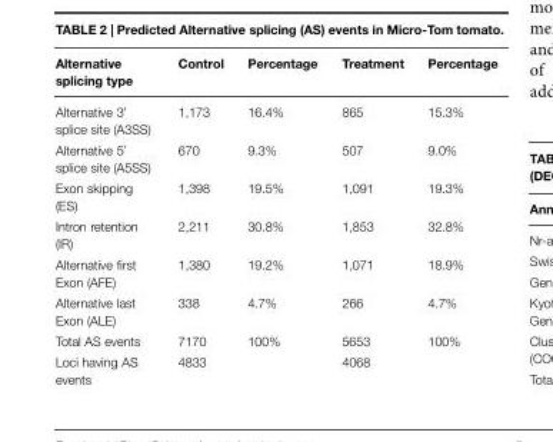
<table><thead><tr><td>Alternative splicing type</td><td>Control</td><td>Percentage</td><td>Treatment</td><td>Percentage</td></tr></thead><tbody><tr><td>Alternative 3′ splice site (A3SS)</td><td>1,173</td><td>16.4%</td><td>865</td><td>15.3%</td></tr><tr><td>Alternative 5′ splice site (A5SS)</td><td>670</td><td>9.3%</td><td>507</td><td>9.0%</td></tr><tr><td>Exon skipping (ES)</td><td>1,398</td><td>19.5%</td><td>1,091</td><td>19.3%</td></tr><tr><td>Intron retention (IR)</td><td>2,211</td><td>30.8%</td><td>1,853</td><td>32.8%</td></tr><tr><td>Alternative first Exon (AFE)</td><td>1,380</td><td>19.2%</td><td>1,071</td><td>18.9%</td></tr><tr><td>Alternative last Exon (ALE)</td><td>338</td><td>4.7%</td><td>266</td><td>4.7%</td></tr><tr><td>Total AS events</td><td>7170</td><td>100%</td><td>5653</td><td>100%</td></tr><tr><td>Loci having AS events</td><td>4833</td><td></td><td>4068</td><td></td></tr></tbody></table>